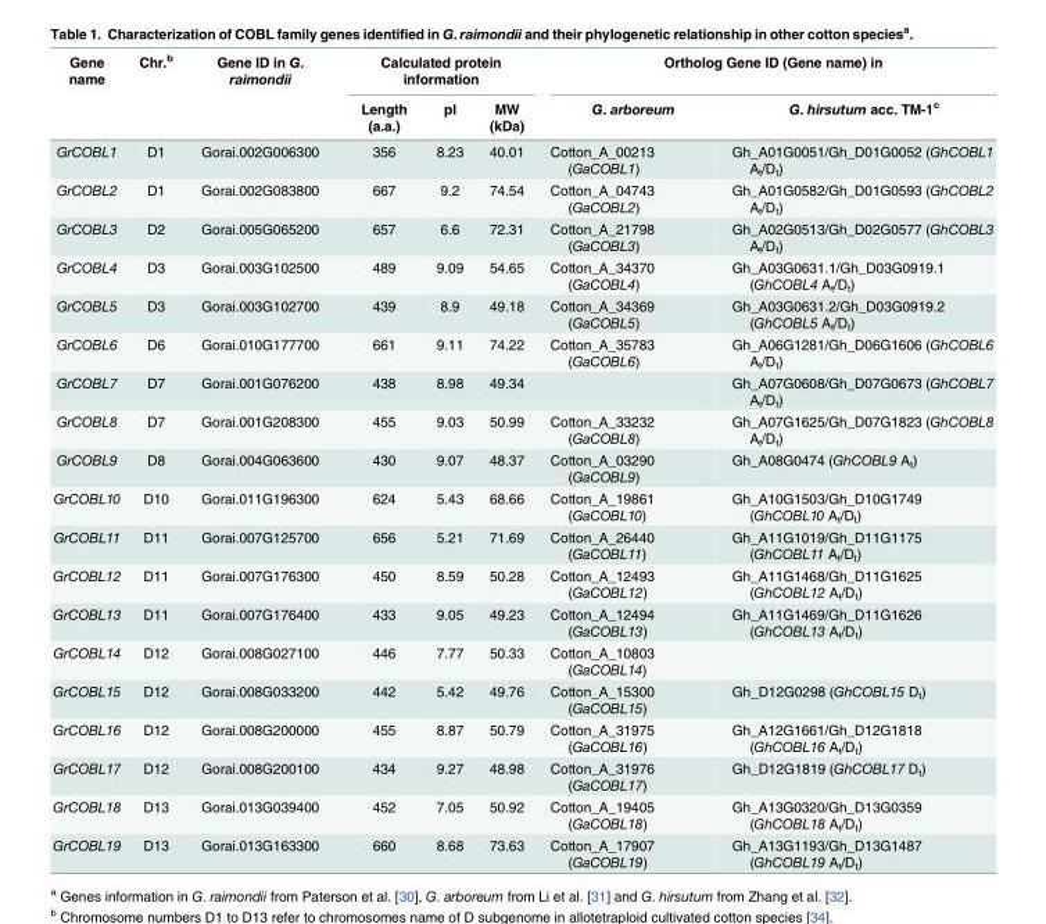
<table><thead><tr><td rowspan="2">Gene name</td><td rowspan="2">Chr.<sup>b</sup></td><td rowspan="2">Gene ID in G. raimondii</td><td colspan="3">Calculated protein information</td><td colspan="2">Ortholog Gene ID (Gene name) in</td></tr><tr><td>Length (a.a.)</td><td>pI</td><td>MW (kDa)</td><td>G. arboreum</td><td>G. hirsutum acc. TM-1<sup>c</sup></td></tr></thead><tbody><tr><td>GrCOBL1</td><td>D1</td><td>Gorai.002G006300</td><td>356</td><td>8.23</td><td>40.01</td><td>Cotton_A_00213 (GaCOBL1)</td><td>Gh_A01G0051/Gh_D01G0052 (GhCOBL1 A<sub>t</sub>/D<sub>t</sub>)</td></tr><tr><td>GrCOBL2</td><td>D1</td><td>Gorai.002G083800</td><td>667</td><td>9.2</td><td>74.54</td><td>Cotton_A_04743 (GaCOBL2)</td><td>Gh_A01G0582/Gh_D01G0593 (GhCOBL2 A<sub>t</sub>/D<sub>t</sub>)</td></tr><tr><td>GrCOBL3</td><td>D2</td><td>Gorai.005G065200</td><td>657</td><td>6.6</td><td>72.31</td><td>Cotton_A_21798 (GaCOBL3)</td><td>Gh_A02G0513/Gh_D02G0577 (GhCOBL3 A<sub>t</sub>/D<sub>t</sub>)</td></tr><tr><td>GrCOBL4</td><td>D3</td><td>Gorai.003G102500</td><td>489</td><td>9.09</td><td>54.65</td><td>Cotton_A_34370 (GaCOBL4)</td><td>Gh_A03G0631.1/Gh_D03G0919.1 (GhCOBL4 A<sub>t</sub>/D<sub>t</sub>)</td></tr><tr><td>GrCOBL5</td><td>D3</td><td>Gorai.003G102700</td><td>439</td><td>8.9</td><td>49.18</td><td>Cotton_A_34369 (GaCOBL5)</td><td>Gh_A03G0631.2/Gh_D03G0919.2 (GhCOBL5 A<sub>t</sub>/D<sub>t</sub>)</td></tr><tr><td>GrCOBL6</td><td>D6</td><td>Gorai.010G177700</td><td>661</td><td>9.11</td><td>74.22</td><td>Cotton_A_35783 (GaCOBL6)</td><td>Gh_A06G1281/Gh_D06G1606 (GhCOBL6 A<sub>t</sub>/D<sub>t</sub>)</td></tr><tr><td>GrCOBL7</td><td>D7</td><td>Gorai.001G076200</td><td>438</td><td>8.98</td><td>49.34</td><td></td><td>Gh_A07G0608/Gh_D07G0673 (GhCOBL7 A<sub>t</sub>/D<sub>t</sub>)</td></tr><tr><td>GrCOBL8</td><td>D7</td><td>Gorai.001G208300</td><td>455</td><td>9.03</td><td>50.99</td><td>Cotton_A_33232 (GaCOBL8)</td><td>Gh_A07G1625/Gh_D07G1823 (GhCOBL8 A<sub>t</sub>/D<sub>t</sub>)</td></tr><tr><td>GrCOBL9</td><td>D8</td><td>Gorai.004G063600</td><td>430</td><td>9.07</td><td>48.37</td><td>Cotton_A_03290 (GaCOBL9)</td><td>Gh_A08G0474 (GhCOBL9 A<sub>t</sub>)</td></tr><tr><td>GrCOBL10</td><td>D10</td><td>Gorai.011G196300</td><td>624</td><td>5.43</td><td>68.66</td><td>Cotton_A_19861 (GaCOBL10)</td><td>Gh_A10G1503/Gh_D10G1749 (GhCOBL10 A<sub>t</sub>/D<sub>t</sub>)</td></tr><tr><td>GrCOBL11</td><td>D11</td><td>Gorai.007G125700</td><td>656</td><td>5.21</td><td>71.69</td><td>Cotton_A_26440 (GaCOBL11)</td><td>Gh_A11G1019/Gh_D11G1175 (GhCOBL11 A<sub>t</sub>/D<sub>t</sub>)</td></tr><tr><td>GrCOBL12</td><td>D11</td><td>Gorai.007G176300</td><td>450</td><td>8.59</td><td>50.28</td><td>Cotton_A_12493 (GaCOBL12)</td><td>Gh_A11G1468/Gh_D11G1625 (GhCOBL12 A<sub>t</sub>/D<sub>t</sub>)</td></tr><tr><td>GrCOBL13</td><td>D11</td><td>Gorai.007G176400</td><td>433</td><td>9.05</td><td>49.23</td><td>Cotton_A_12494 (GaCOBL13)</td><td>Gh_A11G1469/Gh_D11G1626 (GhCOBL13 A<sub>t</sub>/D<sub>t</sub>)</td></tr><tr><td>GrCOBL14</td><td>D12</td><td>Gorai.008G027100</td><td>446</td><td>7.77</td><td>50.33</td><td>Cotton_A_10803 (GaCOBL14)</td><td></td></tr><tr><td>GrCOBL15</td><td>D12</td><td>Gorai.008G033200</td><td>442</td><td>5.42</td><td>49.76</td><td>Cotton_A_15300 (GaCOBL15)</td><td>Gh_D12G0298 (GhCOBL15 D<sub>t</sub>)</td></tr><tr><td>GrCOBL16</td><td>D12</td><td>Gorai.008G200000</td><td>455</td><td>8.87</td><td>50.79</td><td>Cotton_A_31975 (GaCOBL16)</td><td>Gh_A12G1661/Gh_D12G1818 (GhCOBL16 A<sub>t</sub>/D<sub>t</sub>)</td></tr><tr><td>GrCOBL17</td><td>D12</td><td>Gorai.008G200100</td><td>434</td><td>9.27</td><td>48.98</td><td>Cotton_A_31976 (GaCOBL17)</td><td>Gh_D12G1819 (GhCOBL17 D<sub>t</sub>)</td></tr><tr><td>GrCOBL18</td><td>D13</td><td>Gorai.013G039400</td><td>452</td><td>7.05</td><td>50.92</td><td>Cotton_A_19405 (GaCOBL18)</td><td>Gh_A13G0320/Gh_D13G0359 (GhCOBL18 A<sub>t</sub>/D<sub>t</sub>)</td></tr><tr><td>GrCOBL19</td><td>D13</td><td>Gorai.013G163300</td><td>660</td><td>8.68</td><td>73.63</td><td>Cotton_A_17907 (GaCOBL19)</td><td>Gh_A13G1193/Gh_D13G1487 (GhCOBL19 A<sub>t</sub>/D<sub>t</sub>)</td></tr></tbody></table>